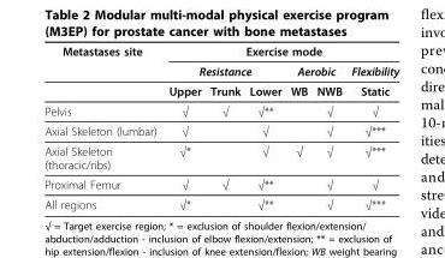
<table><thead><tr><td rowspan="3">Metastases site</td><td colspan="6">Exercise mode</td></tr><tr><td colspan="3">Resistance</td><td colspan="2">Aerobic</td><td rowspan="2">Flexibility Static</td></tr><tr><td>Upper</td><td>Trunk</td><td>Lower</td><td>WB</td><td>NWB</td></tr></thead><tbody><tr><td>Pelvis</td><td>√</td><td>√</td><td>√**</td><td></td><td>√</td><td>√</td></tr><tr><td>Axial Skeleton (lumbar)</td><td>√</td><td></td><td>√</td><td></td><td>√</td><td>√***</td></tr><tr><td>Axial Skeleton (thoracic/ribs)</td><td>√*</td><td></td><td>√</td><td>√</td><td>√</td><td>√***</td></tr><tr><td>Proximal Femur</td><td>√</td><td>√</td><td>√**</td><td></td><td>√</td><td>√</td></tr><tr><td>All regions</td><td>√*</td><td></td><td>√**</td><td></td><td>√</td><td>√***</td></tr></tbody></table>